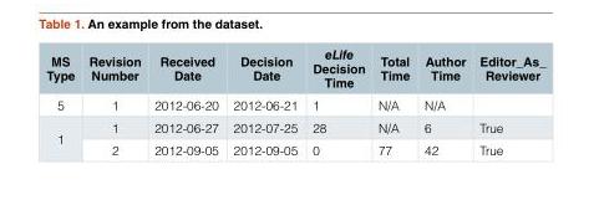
<table><thead><tr><td>MS Type</td><td>Revision Number</td><td>Received Date</td><td>Decision Date</td><td>eLife Decision Time</td><td>Total Time</td><td>Author Time</td><td>Editor_As_ Reviewer</td></tr></thead><tbody><tr><td>5</td><td>1</td><td>2012-06-20</td><td>2012-06-21</td><td>1</td><td>N/A</td><td>N/A</td><td></td></tr><tr><td rowspan="2">1</td><td>1</td><td>2012-06-27</td><td>2012-07-25</td><td>28</td><td>N/A</td><td>6</td><td>True</td></tr><tr><td>2</td><td>2012-09-05</td><td>2012-09-05</td><td>0</td><td>77</td><td>42</td><td>True</td></tr></tbody></table>